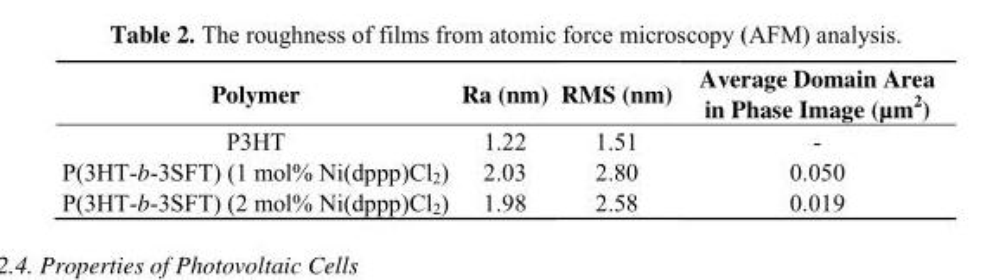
<table><thead><tr><td>Polymer</td><td>Ra (nm)</td><td>RMS (nm)</td><td>Average Domain Area in Phase Image (µm<sup>2</sup>)</td></tr></thead><tbody><tr><td>P3HT</td><td>1.22</td><td>1.51</td><td>-</td></tr><tr><td>P(3HT-b-3SFT) (1 mol% Ni(dppp)Cl<sub>2</sub>)</td><td>2.03</td><td>2.80</td><td>0.050</td></tr><tr><td>P(3HT-b-3SFT) (2 mol% Ni(dppp)Cl<sub>2</sub>)</td><td>1.98</td><td>2.58</td><td>0.019</td></tr></tbody></table>